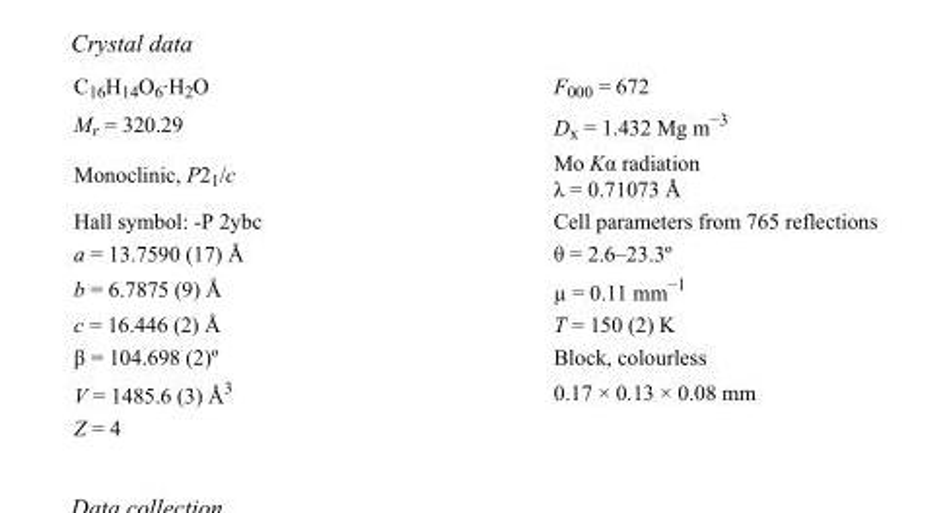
<table><tbody><tr><td>C<sub>16</sub>H<sub>14</sub>O<sub>6</sub>·H<sub>2</sub>O</td><td>F000 = 672</td></tr><tr><td>M<sub>r</sub> = 320.29</td><td>D<sub>x</sub> = 1.432 Mg m<sup>−3</sup></td></tr><tr><td>Monoclinic, P2<sub>1</sub>/c</td><td>Mo Kα radiation λ = 0.71073 Å</td></tr><tr><td>Hall symbol: -P 2ybc</td><td>Cell parameters from 765 reflections</td></tr><tr><td>a = 13.7590 (17) Å</td><td>θ = 2.6–23.3º</td></tr><tr><td>b = 6.7875 (9) Å</td><td>µ = 0.11 mm<sup>−1</sup></td></tr><tr><td>c = 16.446 (2) Å</td><td>T = 150 (2) K</td></tr><tr><td>β = 104.698 (2)º</td><td>Block, colourless</td></tr><tr><td>V = 1485.6 (3) Å<sup>3</sup></td><td>0.17 × 0.13 × 0.08 mm</td></tr><tr><td>Z = 4</td><td></td></tr></tbody></table>